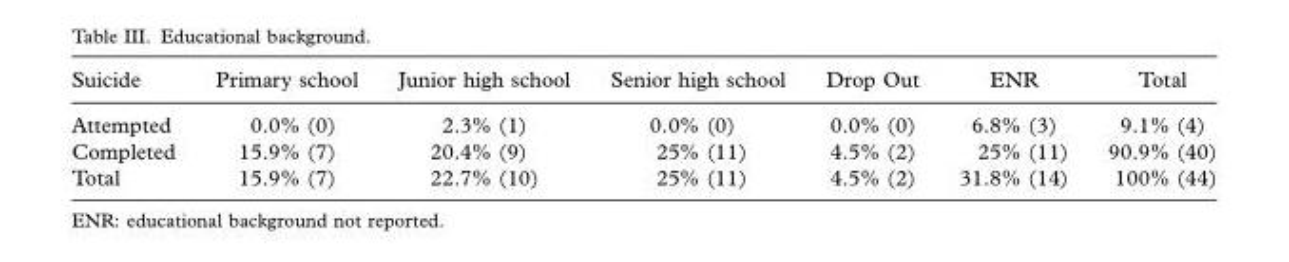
<table><thead><tr><td>Suicide</td><td>Primary school</td><td>Junior high school</td><td>Senior high school</td><td>Drop Out</td><td>ENR</td><td>Total</td></tr></thead><tbody><tr><td>Attempted</td><td>0.0% (0)</td><td>2.3% (1)</td><td>0.0% (0)</td><td>0.0% (0)</td><td>6.8% (3)</td><td>9.1% (4)</td></tr><tr><td>Completed</td><td>15.9% (7)</td><td>20.4% (9)</td><td>25% (11)</td><td>4.5% (2)</td><td>25% (11)</td><td>90.9% (40)</td></tr><tr><td>Total</td><td>15.9% (7)</td><td>22.7% (10)</td><td>25% (11)</td><td>4.5% (2)</td><td>31.8% (14)</td><td>100% (44)</td></tr></tbody></table>